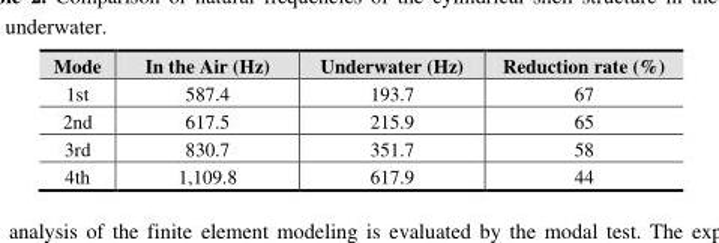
<table><thead><tr><td>Mode</td><td>In the Air (Hz)</td><td>Underwater (Hz)</td><td>Reduction rate (%)</td></tr></thead><tbody><tr><td>1st</td><td>587.4</td><td>193.7</td><td>67</td></tr><tr><td>2nd</td><td>617.5</td><td>215.9</td><td>65</td></tr><tr><td>3rd</td><td>830.7</td><td>351.7</td><td>58</td></tr><tr><td>4th</td><td>1,109.8</td><td>617.9</td><td>44</td></tr></tbody></table>